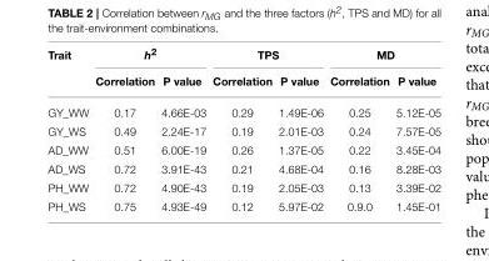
<table><thead><tr><td rowspan="2">Trait</td><td colspan="2">h<sup>2</sup></td><td colspan="2">TPS</td><td colspan="2">MD</td></tr><tr><td>Correlation</td><td>P value</td><td>Correlation</td><td>P value</td><td>Correlation</td><td>P value</td></tr></thead><tbody><tr><td>GY_WW</td><td>0.17</td><td>4.66E-03</td><td>0.29</td><td>1.49E-06</td><td>0.25</td><td>5.12E-05</td></tr><tr><td>GY_WS</td><td>0.49</td><td>2.24E-17</td><td>0.19</td><td>2.01E-03</td><td>0.24</td><td>7.57E-05</td></tr><tr><td>AD_WW</td><td>0.51</td><td>6.00E-19</td><td>0.26</td><td>1.37E-05</td><td>0.22</td><td>3.45E-04</td></tr><tr><td>AD_WS</td><td>0.72</td><td>3.91E-43</td><td>0.21</td><td>4.68E-04</td><td>0.16</td><td>8.28E-03</td></tr><tr><td>PH_WW</td><td>0.72</td><td>4.90E-43</td><td>0.19</td><td>2.05E-03</td><td>0.13</td><td>3.39E-02</td></tr><tr><td>PH_WS</td><td>0.75</td><td>4.93E-49</td><td>0.12</td><td>5.97E-02</td><td>0.9.0</td><td>1.45E-01</td></tr></tbody></table>